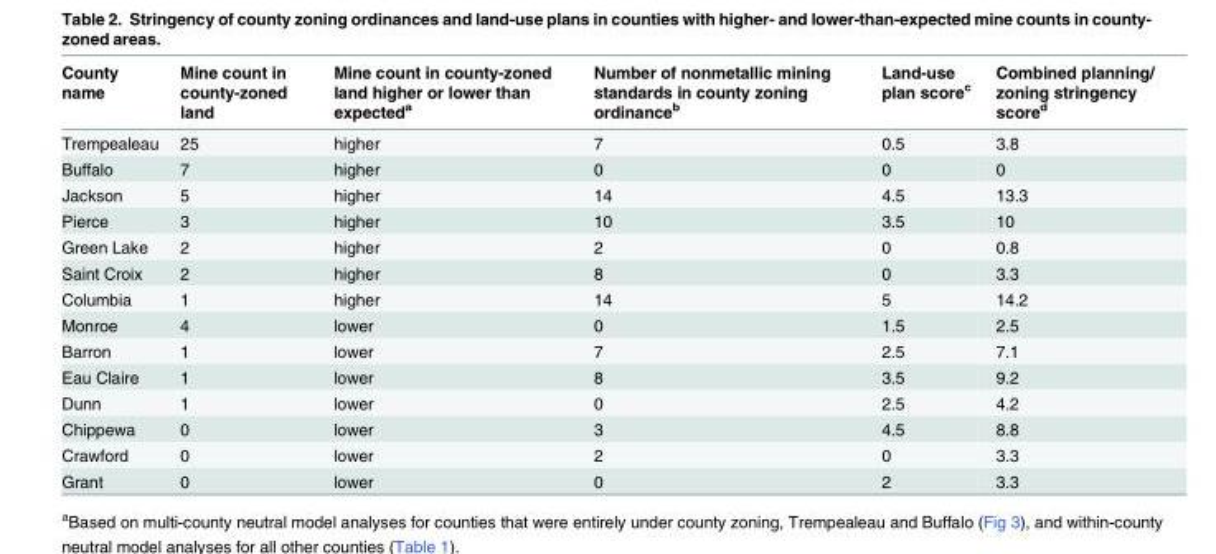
<table><thead><tr><td>County name</td><td>Mine count in county-zoned land</td><td>Mine count in county-zoned land higher or lower than expected<sup>a</sup></td><td>Number of nonmetallic mining standards in county zoning ordinance<sup>b</sup></td><td>Land-use plan score<sup>c</sup></td><td>Combined planning/ zoning stringency score<sup>d</sup></td></tr></thead><tbody><tr><td>Trempealeau</td><td>25</td><td>higher</td><td>7</td><td>0.5</td><td>3.8</td></tr><tr><td>Buffalo</td><td>7</td><td>higher</td><td>0</td><td>0</td><td>0</td></tr><tr><td>Jackson</td><td>5</td><td>higher</td><td>14</td><td>4.5</td><td>13.3</td></tr><tr><td>Pierce</td><td>3</td><td>higher</td><td>10</td><td>3.5</td><td>10</td></tr><tr><td>Green Lake</td><td>2</td><td>higher</td><td>2</td><td>0</td><td>0.8</td></tr><tr><td>Saint Croix</td><td>2</td><td>higher</td><td>8</td><td>0</td><td>3.3</td></tr><tr><td>Columbia</td><td>1</td><td>higher</td><td>14</td><td>5</td><td>14.2</td></tr><tr><td>Monroe</td><td>4</td><td>lower</td><td>0</td><td>1.5</td><td>2.5</td></tr><tr><td>Barron</td><td>1</td><td>lower</td><td>7</td><td>2.5</td><td>7.1</td></tr><tr><td>Eau Claire</td><td>1</td><td>lower</td><td>8</td><td>3.5</td><td>9.2</td></tr><tr><td>Dunn</td><td>1</td><td>lower</td><td>0</td><td>2.5</td><td>4.2</td></tr><tr><td>Chippewa</td><td>0</td><td>lower</td><td>3</td><td>4.5</td><td>8.8</td></tr><tr><td>Crawford</td><td>0</td><td>lower</td><td>2</td><td>0</td><td>3.3</td></tr><tr><td>Grant</td><td>0</td><td>lower</td><td>0</td><td>2</td><td>3.3</td></tr></tbody></table>